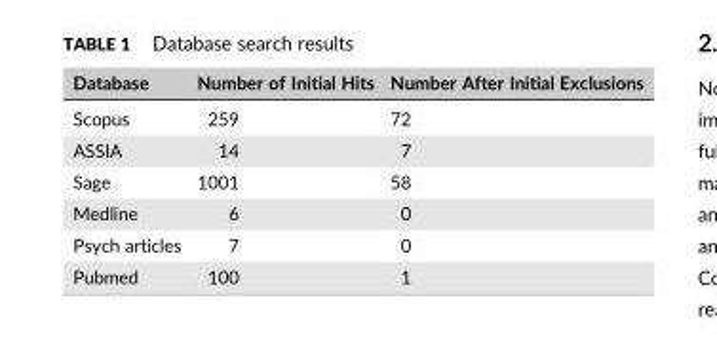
<table><thead><tr><td>Database</td><td>Number of Initial Hits</td><td>Number After Initial Exclusions</td></tr></thead><tbody><tr><td>Scopus</td><td>259</td><td>72</td></tr><tr><td>ASSIA</td><td>14</td><td>7</td></tr><tr><td>Sage</td><td>1001</td><td>58</td></tr><tr><td>Medline</td><td>6</td><td>0</td></tr><tr><td>Psych articles</td><td>7</td><td>0</td></tr><tr><td>Pubmed</td><td>100</td><td>1</td></tr></tbody></table>